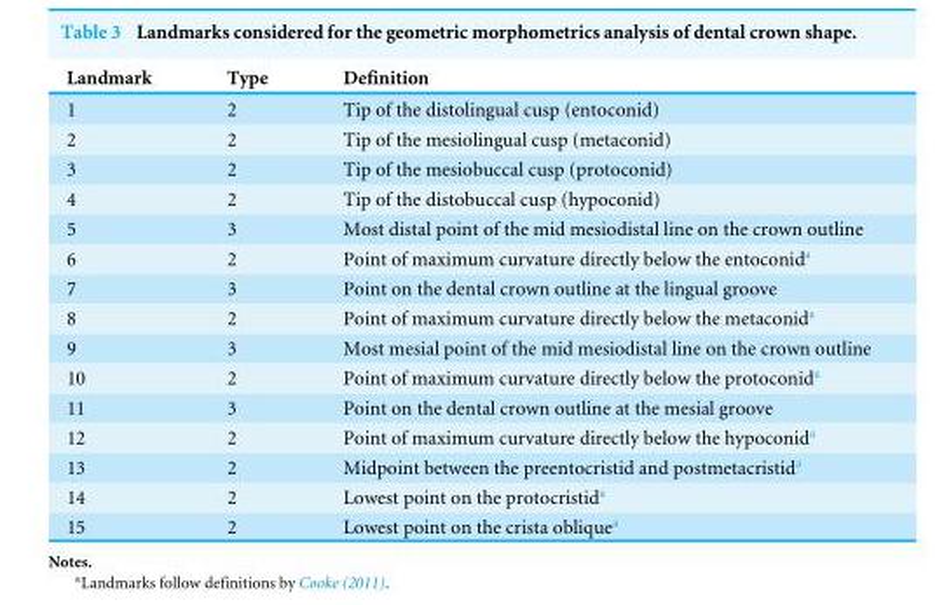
<table><thead><tr><td>Landmark</td><td>Type</td><td>Definition</td></tr></thead><tbody><tr><td>1</td><td>2</td><td>Tip of the distolingual cusp (entoconid)</td></tr><tr><td>2</td><td>2</td><td>Tip of the mesiolingual cusp (metaconid)</td></tr><tr><td>3</td><td>2</td><td>Tip of the mesiobuccal cusp (protoconid)</td></tr><tr><td>4</td><td>2</td><td>Tip of the distobuccal cusp (hypoconid)</td></tr><tr><td>5</td><td>3</td><td>Most distal point of the mid mesiodistal line on the crown outline</td></tr><tr><td>6</td><td>2</td><td>Point of maximum curvature directly below the entoconid<sup>a</sup></td></tr><tr><td>7</td><td>3</td><td>Point on the dental crown outline at the lingual groove</td></tr><tr><td>8</td><td>2</td><td>Point of maximum curvature directly below the metaconid<sup>a</sup></td></tr><tr><td>9</td><td>3</td><td>Most mesial point of the mid mesiodistal line on the crown outline</td></tr><tr><td>10</td><td>2</td><td>Point of maximum curvature directly below the protoconid<sup>a</sup></td></tr><tr><td>11</td><td>3</td><td>Point on the dental crown outline at the mesial groove</td></tr><tr><td>12</td><td>2</td><td>Point of maximum curvature directly below the hypoconid<sup>a</sup></td></tr><tr><td>13</td><td>2</td><td>Midpoint between the preentocristid and postmetacristid<sup>a</sup></td></tr><tr><td>14</td><td>2</td><td>Lowest point on the protocristid<sup>a</sup></td></tr><tr><td>15</td><td>2</td><td>Lowest point on the crista oblique<sup>a</sup></td></tr></tbody></table>